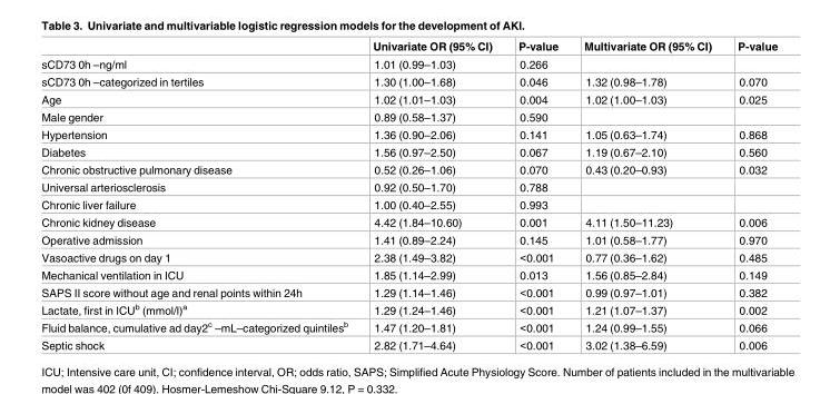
<table><thead><tr><td></td><td>Univariate OR (95% CI)</td><td>P-value</td><td>Multivariate OR (95% CI)</td><td>P-value</td></tr></thead><tbody><tr><td>sCD73 0h –ng/ml</td><td>1.01 (0.99–1.03)</td><td>0.266</td><td></td><td></td></tr><tr><td>sCD73 0h –categorized in tertiles</td><td>1.30 (1.00–1.68)</td><td>0.046</td><td>1.32 (0.98–1.78)</td><td>0.070</td></tr><tr><td>Age</td><td>1.02 (1.01–1.03)</td><td>0.004</td><td>1.02 (1.00–1.03)</td><td>0.025</td></tr><tr><td>Male gender</td><td>0.89 (0.58–1.37)</td><td>0.590</td><td></td><td></td></tr><tr><td>Hypertension</td><td>1.36 (0.90–2.06)</td><td>0.141</td><td>1.05 (0.63–1.74)</td><td>0.868</td></tr><tr><td>Diabetes</td><td>1.56 (0.97–2.50)</td><td>0.067</td><td>1.19 (0.67–2.10)</td><td>0.560</td></tr><tr><td>Chronic obstructive pulmonary disease</td><td>0.52 (0.26–1.06)</td><td>0.070</td><td>0.43 (0.20–0.93)</td><td>0.032</td></tr><tr><td>Universal arteriosclerosis</td><td>0.92 (0.50–1.70)</td><td>0.788</td><td></td><td></td></tr><tr><td>Chronic liver failure</td><td>1.00 (0.40–2.55)</td><td>0.993</td><td></td><td></td></tr><tr><td>Chronic kidney disease</td><td>4.42 (1.84–10.60)</td><td>0.001</td><td>4.11 (1.50–11.23)</td><td>0.006</td></tr><tr><td>Operative admission</td><td>1.41 (0.89–2.24)</td><td>0.145</td><td>1.01 (0.58–1.77)</td><td>0.970</td></tr><tr><td>Vasoactive drugs on day 1</td><td>2.38 (1.49–3.82)</td><td>&lt;0.001</td><td>0.77 (0.36–1.62)</td><td>0.485</td></tr><tr><td>Mechanical ventilation in ICU</td><td>1.85 (1.14–2.99)</td><td>0.013</td><td>1.56 (0.85–2.84)</td><td>0.149</td></tr><tr><td>SAPS II score without age and renal points within 24h</td><td>1.29 (1.14–1.46)</td><td>&lt;0.001</td><td>0.99 (0.97–1.01)</td><td>0.382</td></tr><tr><td>Lactate, first in ICU<sup>b</sup> (mmol/l)<sup>a</sup></td><td>1.29 (1.24–1.46)</td><td>&lt;0.001</td><td>1.21 (1.07–1.37)</td><td>0.002</td></tr><tr><td>Fluid balance, cumulative ad day2<sup>c</sup> –mL–categorized quintiles<sup>b</sup></td><td>1.47 (1.20–1.81)</td><td>&lt;0.001</td><td>1.24 (0.99–1.55)</td><td>0.066</td></tr><tr><td>Septic shock</td><td>2.82 (1.71–4.64)</td><td>&lt;0.001</td><td>3.02 (1.38–6.59)</td><td>0.006</td></tr></tbody></table>